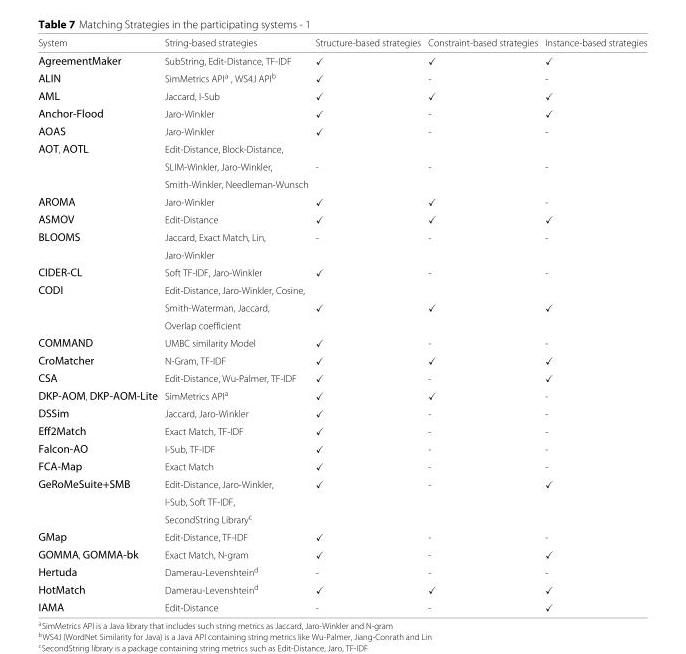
<table><thead><tr><td>System</td><td>String-based strategies</td><td>Structure-based strategies</td><td>Constraint-based strategies</td><td>Instance-based strategies</td></tr></thead><tbody><tr><td>AgreementMaker</td><td>SubString, Edit-Distance, TF-IDF</td><td>✓</td><td>✓</td><td>✓</td></tr><tr><td>ALIN</td><td>SimMetrics API<sup>a</sup> , WS4J API<sup>b</sup></td><td>✓</td><td>-</td><td>-</td></tr><tr><td>AML</td><td>Jaccard, I-Sub</td><td>✓</td><td>✓</td><td>✓</td></tr><tr><td>Anchor-Flood</td><td>Jaro-Winkler</td><td>✓</td><td>-</td><td>✓</td></tr><tr><td>AOAS</td><td>Jaro-Winkler</td><td>✓</td><td>-</td><td>-</td></tr><tr><td rowspan="3">AOT, AOTL</td><td>Edit-Distance, Block-Distance,</td><td></td><td></td><td></td></tr><tr><td>SLIM-Winkler, Jaro-Winkler,</td><td>-</td><td>-</td><td>-</td></tr><tr><td>Smith-Winkler, Needleman-Wunsch</td><td></td><td></td><td></td></tr><tr><td>AROMA</td><td>Jaro-Winkler</td><td>✓</td><td>✓</td><td>-</td></tr><tr><td>ASMOV</td><td>Edit-Distance</td><td>✓</td><td>✓</td><td>✓</td></tr><tr><td rowspan="2">BLOOMS</td><td>Jaccard, Exact Match, Lin,</td><td>-</td><td>-</td><td>-</td></tr><tr><td>Jaro-Winkler</td><td></td><td></td><td></td></tr><tr><td>CIDER-CL</td><td>Soft TF-IDF, Jaro-Winkler</td><td>✓</td><td>-</td><td>-</td></tr><tr><td rowspan="3">CODI</td><td>Edit-Distance, Jaro-Winkler, Cosine,</td><td></td><td></td><td></td></tr><tr><td>Smith-Waterman, Jaccard,</td><td>✓</td><td>✓</td><td>✓</td></tr><tr><td>Overlap coefficient</td><td></td><td></td><td></td></tr><tr><td>COMMAND</td><td>UMBC similarity Model</td><td>✓</td><td>-</td><td>-</td></tr><tr><td>CroMatcher</td><td>N-Gram, TF-IDF</td><td>✓</td><td>✓</td><td>✓</td></tr><tr><td>CSA</td><td>Edit-Distance, Wu-Palmer, TF-IDF</td><td>✓</td><td>-</td><td>✓</td></tr><tr><td>DKP-AOM, DKP-AOM-Lite</td><td>SimMetrics API<sup>a</sup></td><td>✓</td><td>✓</td><td>-</td></tr><tr><td>DSSim</td><td>Jaccard, Jaro-Winkler</td><td>✓</td><td>-</td><td>-</td></tr><tr><td>Eff2Match</td><td>Exact Match, TF-IDF</td><td>✓</td><td>-</td><td>-</td></tr><tr><td>Falcon-AO</td><td>I-Sub, TF-IDF</td><td>✓</td><td>-</td><td>-</td></tr><tr><td>FCA-Map</td><td>Exact Match</td><td>✓</td><td>-</td><td>-</td></tr><tr><td rowspan="3">GeRoMeSuite+SMB</td><td>Edit-Distance, Jaro-Winkler,</td><td>✓</td><td>-</td><td>✓</td></tr><tr><td>I-Sub, Soft TF-IDF,</td><td></td><td></td><td></td></tr><tr><td>SecondString Library<sup>c</sup></td><td></td><td></td><td></td></tr><tr><td>GMap</td><td>Edit-Distance, TF-IDF</td><td>✓</td><td>-</td><td>-</td></tr><tr><td>GOMMA, GOMMA-bk</td><td>Exact Match, N-gram</td><td>✓</td><td>-</td><td>✓</td></tr><tr><td>Hertuda</td><td>Damerau-Levenshtein<sup>d</sup></td><td>-</td><td>-</td><td>-</td></tr><tr><td>HotMatch</td><td>Damerau-Levenshtein<sup>d</sup></td><td>✓</td><td>✓</td><td>✓</td></tr><tr><td>IAMA</td><td>Edit-Distance</td><td>-</td><td>-</td><td>✓</td></tr></tbody></table>